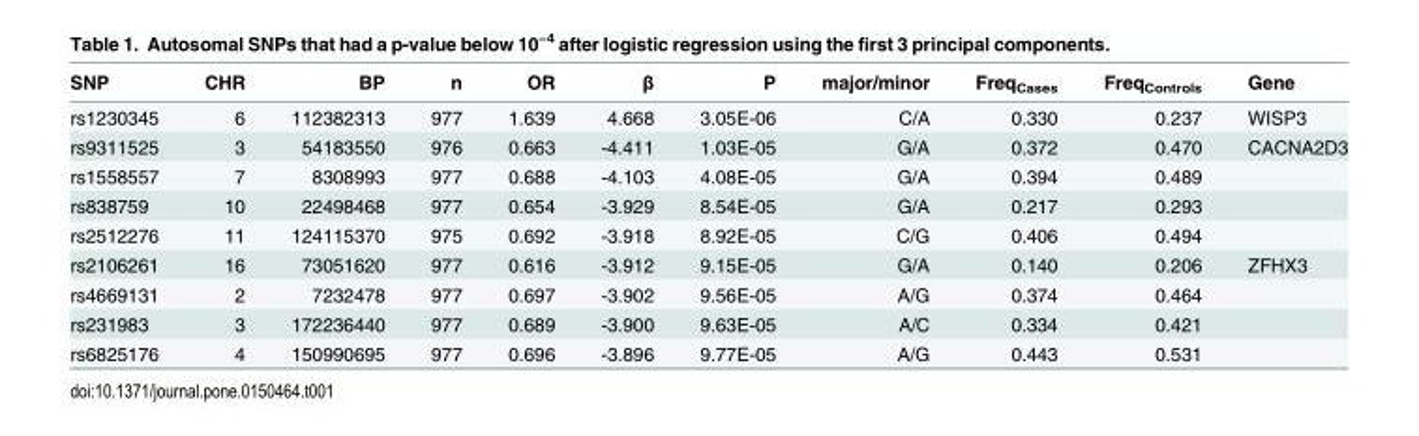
<table><thead><tr><td>SNP</td><td>CHR</td><td>BP</td><td>n</td><td>OR</td><td>β</td><td>P</td><td>major/minor</td><td>Freq<sub>Cases</sub></td><td>Freq<sub>Controls</sub></td><td>Gene</td></tr></thead><tbody><tr><td>rs1230345</td><td>6</td><td>112382313</td><td>977</td><td>1.639</td><td>4.668</td><td>3.05E-06</td><td>C/A</td><td>0.330</td><td>0.237</td><td>WISP3</td></tr><tr><td>rs9311525</td><td>3</td><td>54183550</td><td>976</td><td>0.663</td><td>-4.411</td><td>1.03E-05</td><td>G/A</td><td>0.372</td><td>0.470</td><td>CACNA2D3</td></tr><tr><td>rs1558557</td><td>7</td><td>8308993</td><td>977</td><td>0.688</td><td>-4.103</td><td>4.08E-05</td><td>G/A</td><td>0.394</td><td>0.489</td><td></td></tr><tr><td>rs838759</td><td>10</td><td>22498468</td><td>977</td><td>0.654</td><td>-3.929</td><td>8.54E-05</td><td>G/A</td><td>0.217</td><td>0.293</td><td></td></tr><tr><td>rs2512276</td><td>11</td><td>124115370</td><td>975</td><td>0.692</td><td>-3.918</td><td>8.92E-05</td><td>C/G</td><td>0.406</td><td>0.494</td><td></td></tr><tr><td>rs2106261</td><td>16</td><td>73051620</td><td>977</td><td>0.616</td><td>-3.912</td><td>9.15E-05</td><td>G/A</td><td>0.140</td><td>0.206</td><td>ZFHX3</td></tr><tr><td>rs4669131</td><td>2</td><td>7232478</td><td>977</td><td>0.697</td><td>-3.902</td><td>9.56E-05</td><td>A/G</td><td>0.374</td><td>0.464</td><td></td></tr><tr><td>rs231983</td><td>3</td><td>172236440</td><td>977</td><td>0.689</td><td>-3.900</td><td>9.63E-05</td><td>A/C</td><td>0.334</td><td>0.421</td><td></td></tr><tr><td>rs6825176</td><td>4</td><td>150990695</td><td>977</td><td>0.696</td><td>-3.896</td><td>9.77E-05</td><td>A/G</td><td>0.443</td><td>0.531</td><td></td></tr></tbody></table>